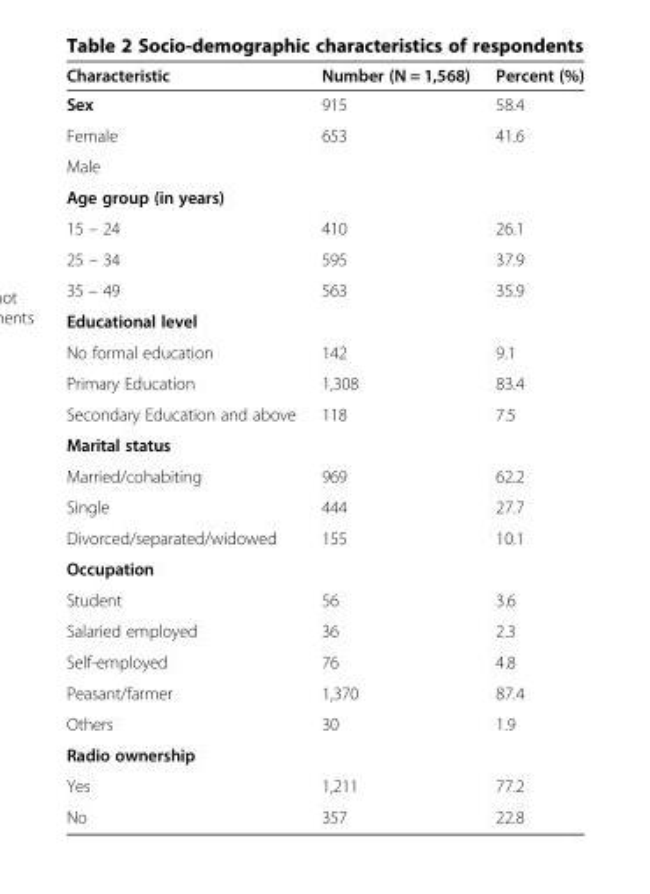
<table><thead><tr><td>Characteristic</td><td>Number (N = 1,568)</td><td>Percent (%)</td></tr></thead><tbody><tr><td>Sex</td><td>915</td><td>58.4</td></tr><tr><td>Female</td><td>653</td><td>41.6</td></tr><tr><td colspan="3">Male</td></tr><tr><td colspan="3">Age group (in years)</td></tr><tr><td>15 – 24</td><td>410</td><td>26.1</td></tr><tr><td>25 – 34</td><td>595</td><td>37.9</td></tr><tr><td>35 – 49</td><td>563</td><td>35.9</td></tr><tr><td colspan="3">Educational level</td></tr><tr><td>No formal education</td><td>142</td><td>9.1</td></tr><tr><td>Primary Education</td><td>1,308</td><td>83.4</td></tr><tr><td>Secondary Education and above</td><td>118</td><td>7.5</td></tr><tr><td colspan="3">Marital status</td></tr><tr><td>Married/cohabiting</td><td>969</td><td>62.2</td></tr><tr><td>Single</td><td>444</td><td>27.7</td></tr><tr><td>Divorced/separated/widowed</td><td>155</td><td>10.1</td></tr><tr><td colspan="3">Occupation</td></tr><tr><td>Student</td><td>56</td><td>3.6</td></tr><tr><td>Salaried employed</td><td>36</td><td>2.3</td></tr><tr><td>Self-employed</td><td>76</td><td>4.8</td></tr><tr><td>Peasant/farmer</td><td>1,370</td><td>87.4</td></tr><tr><td>Others</td><td>30</td><td>1.9</td></tr><tr><td colspan="3">Radio ownership</td></tr><tr><td>Yes</td><td>1,211</td><td>77.2</td></tr><tr><td>No</td><td>357</td><td>22.8</td></tr></tbody></table>